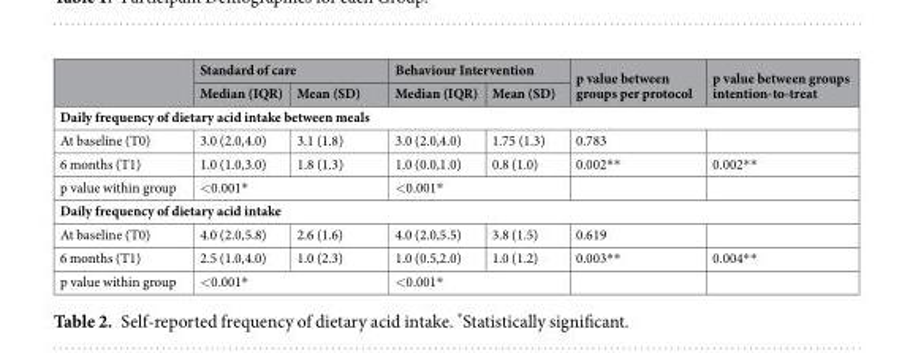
<table><thead><tr><td rowspan="2"></td><td colspan="2">Standard of care</td><td colspan="2">Behaviour Intervention</td><td rowspan="2">p value between groups per protocol</td><td rowspan="2">p value between groups intention-to-treat</td></tr><tr><td>Median (IQR)</td><td>Mean (SD)</td><td>Median (IQR)</td><td>Mean (SD)</td></tr></thead><tbody><tr><td colspan="7">Daily frequency of dietary acid intake between meals</td></tr><tr><td>At baseline (T0)</td><td>3.0 (2.0,4.0)</td><td>3.1 (1.8)</td><td>3.0 (2.0,4.0)</td><td>1.75 (1.3)</td><td>0.783</td><td></td></tr><tr><td>6 months (T1)</td><td>1.0 (1.0,3.0)</td><td>1.8 (1.3)</td><td>1.0 (0.0,1.0)</td><td>0.8 (1.0)</td><td>0.002**</td><td>0.002**</td></tr><tr><td>p value within group</td><td colspan="2">&lt;0.001*</td><td colspan="2">&lt;0.001*</td><td></td><td></td></tr><tr><td colspan="7">Daily frequency of dietary acid intake</td></tr><tr><td>At baseline (T0)</td><td>4.0 (2.0,5.8)</td><td>2.6 (1.6)</td><td>4.0 (2.0,5.5)</td><td>3.8 (1.5)</td><td>0.619</td><td></td></tr><tr><td>6 months (T1)</td><td>2.5 (1.0,4.0)</td><td>1.0 (2.3)</td><td>1.0 (0.5,2.0)</td><td>1.0 (1.2)</td><td>0.003**</td><td>0.004**</td></tr><tr><td>p value within group</td><td colspan="2">&lt;0.001*</td><td colspan="2">&lt;0.001*</td><td></td><td></td></tr></tbody></table>